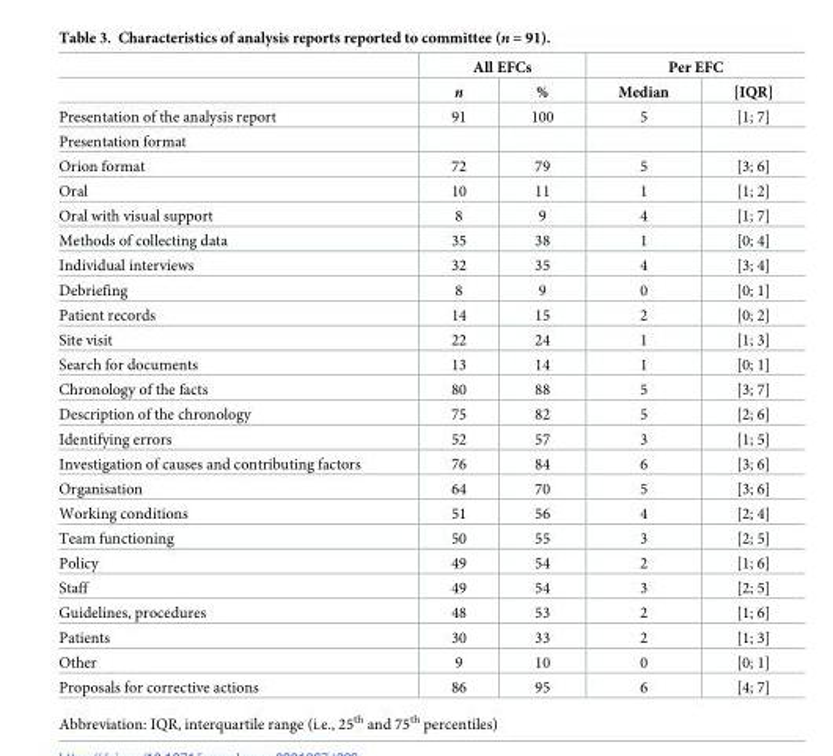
<table><thead><tr><td rowspan="2"></td><td colspan="2">All EFCs</td><td colspan="2">Per EFC</td></tr><tr><td>n</td><td>%</td><td>Median</td><td>[IQR]</td></tr></thead><tbody><tr><td>Presentation of the analysis report</td><td>91</td><td>100</td><td>5</td><td>[1; 7]</td></tr><tr><td colspan="5">Presentation format</td></tr><tr><td>Orion format</td><td>72</td><td>79</td><td>5</td><td>[3; 6]</td></tr><tr><td>Oral</td><td>10</td><td>11</td><td>1</td><td>[1; 2]</td></tr><tr><td>Oral with visual support</td><td>8</td><td>9</td><td>4</td><td>[1; 7]</td></tr><tr><td>Methods of collecting data</td><td>35</td><td>38</td><td>1</td><td>[0; 4]</td></tr><tr><td>Individual interviews</td><td>32</td><td>35</td><td>4</td><td>[3; 4]</td></tr><tr><td>Debriefing</td><td>8</td><td>9</td><td>0</td><td>[0; 1]</td></tr><tr><td>Patient records</td><td>14</td><td>15</td><td>2</td><td>[0; 2]</td></tr><tr><td>Site visit</td><td>22</td><td>24</td><td>1</td><td>[1; 3]</td></tr><tr><td>Search for documents</td><td>13</td><td>14</td><td>1</td><td>[0; 1]</td></tr><tr><td>Chronology of the facts</td><td>80</td><td>88</td><td>5</td><td>[3; 7]</td></tr><tr><td>Description of the chronology</td><td>75</td><td>82</td><td>5</td><td>[2; 6]</td></tr><tr><td>Identifying errors</td><td>52</td><td>57</td><td>3</td><td>[1; 5]</td></tr><tr><td>Investigation of causes and contributing factors</td><td>76</td><td>84</td><td>6</td><td>[3; 6]</td></tr><tr><td>Organisation</td><td>64</td><td>70</td><td>5</td><td>[3; 6]</td></tr><tr><td>Working conditions</td><td>51</td><td>56</td><td>4</td><td>[2; 4]</td></tr><tr><td>Team functioning</td><td>50</td><td>55</td><td>3</td><td>[2; 5]</td></tr><tr><td>Policy</td><td>49</td><td>54</td><td>2</td><td>[1; 6]</td></tr><tr><td>Staff</td><td>49</td><td>54</td><td>3</td><td>[2; 5]</td></tr><tr><td>Guidelines, procedures</td><td>48</td><td>53</td><td>2</td><td>[1; 6]</td></tr><tr><td>Patients</td><td>30</td><td>33</td><td>2</td><td>[1; 3]</td></tr><tr><td>Other</td><td>9</td><td>10</td><td>0</td><td>[0; 1]</td></tr><tr><td>Proposals for corrective actions</td><td>86</td><td>95</td><td>6</td><td>[4; 7]</td></tr></tbody></table>